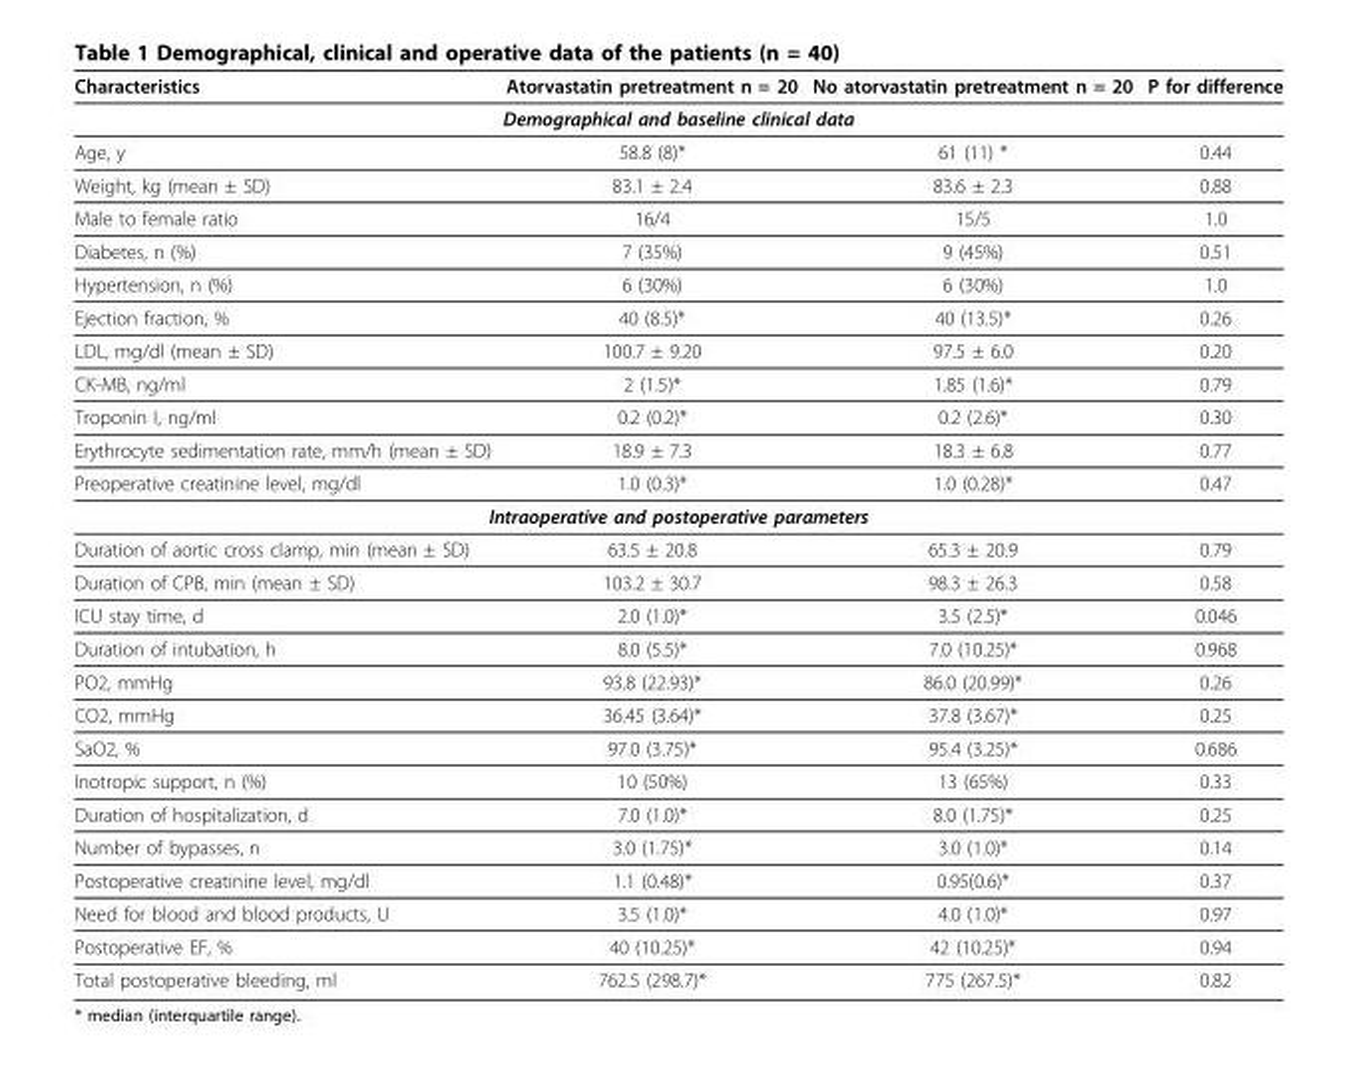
<table><thead><tr><td>Characteristics</td><td>Atorvastatin pretreatment n = 20</td><td>No atorvastatin pretreatment n = 20</td><td>P for difference</td></tr></thead><tbody><tr><td colspan="4">Demographical and baseline clinical data</td></tr><tr><td>Age, y</td><td>58.8 (8)*</td><td>61 (11) *</td><td>0.44</td></tr><tr><td>Weight, kg (mean ± SD)</td><td>83.1 ± 2.4</td><td>83.6 ± 2.3</td><td>0.88</td></tr><tr><td>Male to female ratio</td><td>16/4</td><td>15/5</td><td>1.0</td></tr><tr><td>Diabetes, n (%)</td><td>7 (35%)</td><td>9 (45%)</td><td>0.51</td></tr><tr><td>Hypertension, n (%)</td><td>6 (30%)</td><td>6 (30%)</td><td>1.0</td></tr><tr><td>Ejection fraction, %</td><td>40 (8.5)*</td><td>40 (13.5)*</td><td>0.26</td></tr><tr><td>LDL, mg/dl (mean ± SD)</td><td>100.7 ± 9.20</td><td>97.5 ± 6.0</td><td>0.20</td></tr><tr><td>CK-MB, ng/ml</td><td>2 (1.5)*</td><td>1.85 (1.6)*</td><td>0.79</td></tr><tr><td>Troponin I, ng/ml</td><td>0.2 (0.2)*</td><td>0.2 (2.6)*</td><td>0.30</td></tr><tr><td>Erythrocyte sedimentation rate, mm/h (mean ± SD)</td><td>18.9 ± 7.3</td><td>18.3 ± 6.8</td><td>0.77</td></tr><tr><td>Preoperative creatinine level, mg/dl</td><td>1.0 (0.3)*</td><td>1.0 (0.28)*</td><td>0.47</td></tr><tr><td colspan="4">Intraoperative and postoperative parameters</td></tr><tr><td>Duration of aortic cross clamp, min (mean ± SD)</td><td>63.5 ± 20.8</td><td>65.3 ± 20.9</td><td>0.79</td></tr><tr><td>Duration of CPB, min (mean ± SD)</td><td>103.2 ± 30.7</td><td>98.3 ± 26.3</td><td>0.58</td></tr><tr><td>ICU stay time, d</td><td>2.0 (1.0)*</td><td>3.5 (2.5)*</td><td>0.046</td></tr><tr><td>Duration of intubation, h</td><td>8.0 (5.5)*</td><td>7.0 (10.25)*</td><td>0.968</td></tr><tr><td>PO2, mmHg</td><td>93.8 (22.93)*</td><td>86.0 (20.99)*</td><td>0.26</td></tr><tr><td>CO2, mmHg</td><td>36.45 (3.64)*</td><td>37.8 (3.67)*</td><td>0.25</td></tr><tr><td>SaO2, %</td><td>97.0 (3.75)*</td><td>95.4 (3.25)*</td><td>0.686</td></tr><tr><td>Inotropic support, n (%)</td><td>10 (50%)</td><td>13 (65%)</td><td>0.33</td></tr><tr><td>Duration of hospitalization, d</td><td>7.0 (1.0)*</td><td>8.0 (1.75)*</td><td>0.25</td></tr><tr><td>Number of bypasses, n</td><td>3.0 (1.75)*</td><td>3.0 (1.0)*</td><td>0.14</td></tr><tr><td>Postoperative creatinine level, mg/dl</td><td>1.1 (0.48)*</td><td>0.95(0.6)*</td><td>0.37</td></tr><tr><td>Need for blood and blood products, U</td><td>3.5 (1.0)*</td><td>4.0 (1.0)*</td><td>0.97</td></tr><tr><td>Postoperative EF, %</td><td>40 (10.25)*</td><td>42 (10.25)*</td><td>0.94</td></tr><tr><td>Total postoperative bleeding, ml</td><td>762.5 (298.7)*</td><td>775 (267.5)*</td><td>0.82</td></tr></tbody></table>